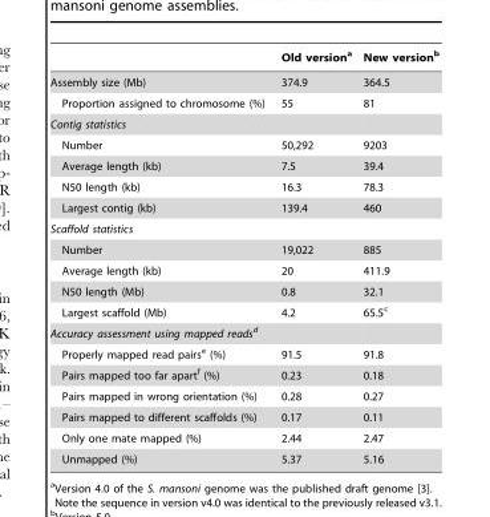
<table><thead><tr><td></td><td>Old version<sup>a</sup></td><td>New version<sup>b</sup></td></tr></thead><tbody><tr><td>Assembly size (Mb)</td><td>374.9</td><td>364.5</td></tr><tr><td>Proportion assigned to chromosome (%)</td><td>55</td><td>81</td></tr><tr><td colspan="3">Contig statistics</td></tr><tr><td>Number</td><td>50,292</td><td>9203</td></tr><tr><td>Average length (kb)</td><td>7.5</td><td>39.4</td></tr><tr><td>N50 length (kb)</td><td>16.3</td><td>78.3</td></tr><tr><td>Largest contig (kb)</td><td>139.4</td><td>460</td></tr><tr><td colspan="3">Scaffold statistics</td></tr><tr><td>Number</td><td>19,022</td><td>885</td></tr><tr><td>Average length (kb)</td><td>20</td><td>411.9</td></tr><tr><td>N50 length (Mb)</td><td>0.8</td><td>32.1</td></tr><tr><td>Largest scaffold (Mb)</td><td>4.2</td><td>65.5<sup>c</sup></td></tr><tr><td colspan="3">Accuracy assessment using mapped readsd</td></tr><tr><td>Properly mapped read pairs<sup>e</sup> (%)</td><td>91.5</td><td>91.8</td></tr><tr><td>Pairs mapped too far apart<sup>f</sup> (%)</td><td>0.23</td><td>0.18</td></tr><tr><td>Pairs mapped in wrong orientation (%)</td><td>0.28</td><td>0.27</td></tr><tr><td>Pairs mapped to different scaffolds (%)</td><td>0.17</td><td>0.11</td></tr><tr><td>Only one mate mapped (%)</td><td>2.44</td><td>2.47</td></tr><tr><td>Unmapped (%)</td><td>5.37</td><td>5.16</td></tr></tbody></table>